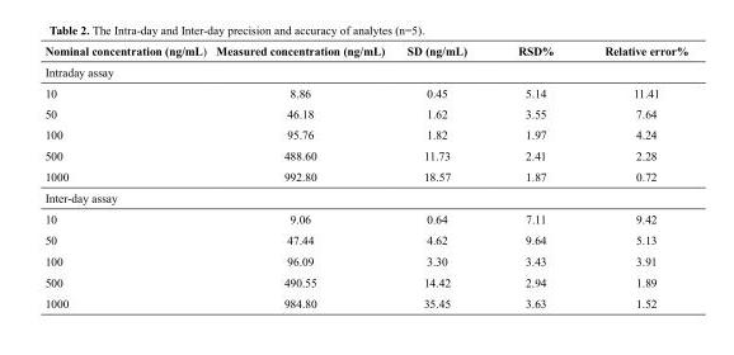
<table><thead><tr><td>Nominal concentration (ng/mL)</td><td>Measured concentration (ng/mL)</td><td>SD (ng/mL)</td><td>RSD%</td><td>Relative error%</td></tr></thead><tbody><tr><td colspan="5">Intraday assay</td></tr><tr><td>10</td><td>8.86</td><td>0.45</td><td>5.14</td><td>11.41</td></tr><tr><td>50</td><td>46.18</td><td>1.62</td><td>3.55</td><td>7.64</td></tr><tr><td>100</td><td>95.76</td><td>1.82</td><td>1.97</td><td>4.24</td></tr><tr><td>500</td><td>488.60</td><td>11.73</td><td>2.41</td><td>2.28</td></tr><tr><td>1000</td><td>992.80</td><td>18.57</td><td>1.87</td><td>0.72</td></tr><tr><td colspan="5">Inter-day assay</td></tr><tr><td>10</td><td>9.06</td><td>0.64</td><td>7.11</td><td>9.42</td></tr><tr><td>50</td><td>47.44</td><td>4.62</td><td>9.64</td><td>5.13</td></tr><tr><td>100</td><td>96.09</td><td>3.30</td><td>3.43</td><td>3.91</td></tr><tr><td>500</td><td>490.55</td><td>14.42</td><td>2.94</td><td>1.89</td></tr><tr><td>1000</td><td>984.80</td><td>35.45</td><td>3.63</td><td>1.52</td></tr></tbody></table>